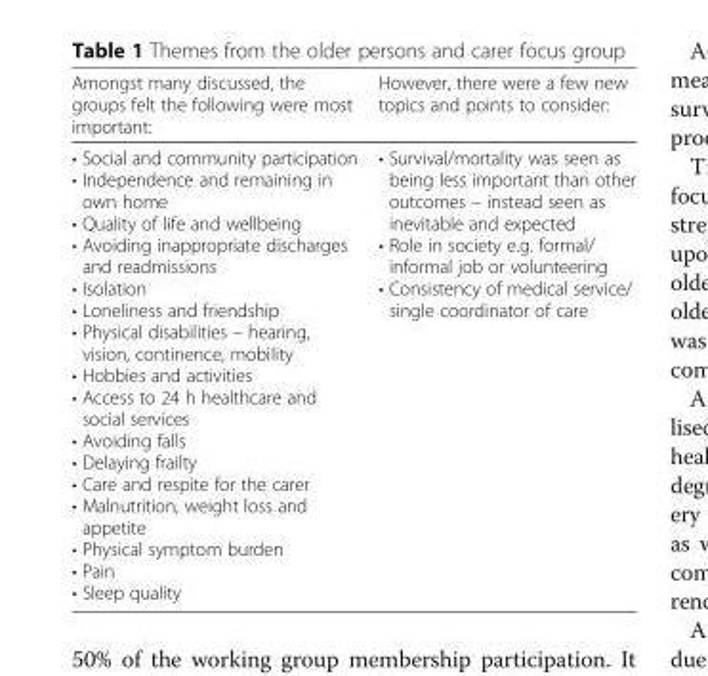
<table><thead><tr><td>Amongst many discussed, the groups felt the following were most important:</td><td>However, there were a few new topics and points to consider:</td></tr></thead><tbody><tr><td>• Social and community participation • Independence and remaining in own home • Quality of life and wellbeing • Avoiding inappropriate discharges and readmissions • Isolation • Loneliness and friendship • Physical disabilities – hearing, vision, continence, mobility • Hobbies and activities • Access to 24 h healthcare and social services • Avoiding falls • Delaying frailty • Care and respite for the carer • Malnutrition, weight loss and appetite • Physical symptom burden • Pain • Sleep quality</td><td>• Survival/mortality was seen as being less important than other outcomes – instead seen as inevitable and expected • Role in society e.g. formal/ informal job or volunteering • Consistency of medical service/ single coordinator of care</td></tr></tbody></table>